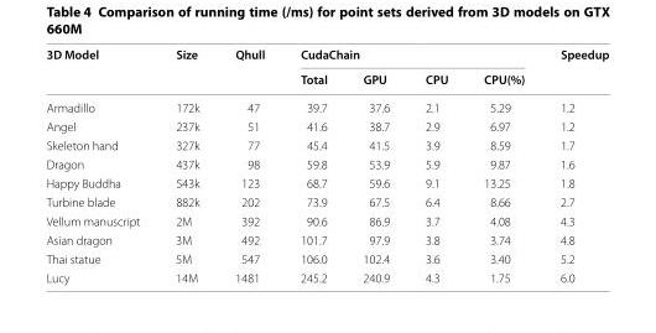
<table><thead><tr><td rowspan="2">3D Model</td><td rowspan="2">Size</td><td rowspan="2">Qhull</td><td colspan="4">CudaChain</td><td rowspan="2">Speedup</td></tr><tr><td>Total</td><td>GPU</td><td>CPU</td><td>CPU(%)</td></tr></thead><tbody><tr><td>Armadillo</td><td>172k</td><td>47</td><td>39.7</td><td>37.6</td><td>2.1</td><td>5.29</td><td>1.2</td></tr><tr><td>Angel</td><td>237k</td><td>51</td><td>41.6</td><td>38.7</td><td>2.9</td><td>6.97</td><td>1.2</td></tr><tr><td>Skeleton hand</td><td>327k</td><td>77</td><td>45.4</td><td>41.5</td><td>3.9</td><td>8.59</td><td>1.7</td></tr><tr><td>Dragon</td><td>437k</td><td>98</td><td>59.8</td><td>53.9</td><td>5.9</td><td>9.87</td><td>1.6</td></tr><tr><td>Happy Buddha</td><td>543k</td><td>123</td><td>68.7</td><td>59.6</td><td>9.1</td><td>13.25</td><td>1.8</td></tr><tr><td>Turbine blade</td><td>882k</td><td>202</td><td>73.9</td><td>67.5</td><td>6.4</td><td>8.66</td><td>2.7</td></tr><tr><td>Vellum manuscript</td><td>2M</td><td>392</td><td>90.6</td><td>86.9</td><td>3.7</td><td>4.08</td><td>4.3</td></tr><tr><td>Asian dragon</td><td>3M</td><td>492</td><td>101.7</td><td>97.9</td><td>3.8</td><td>3.74</td><td>4.8</td></tr><tr><td>Thai statue</td><td>5M</td><td>547</td><td>106.0</td><td>102.4</td><td>3.6</td><td>3.40</td><td>5.2</td></tr><tr><td>Lucy</td><td>14M</td><td>1481</td><td>245.2</td><td>240.9</td><td>4.3</td><td>1.75</td><td>6.0</td></tr></tbody></table>